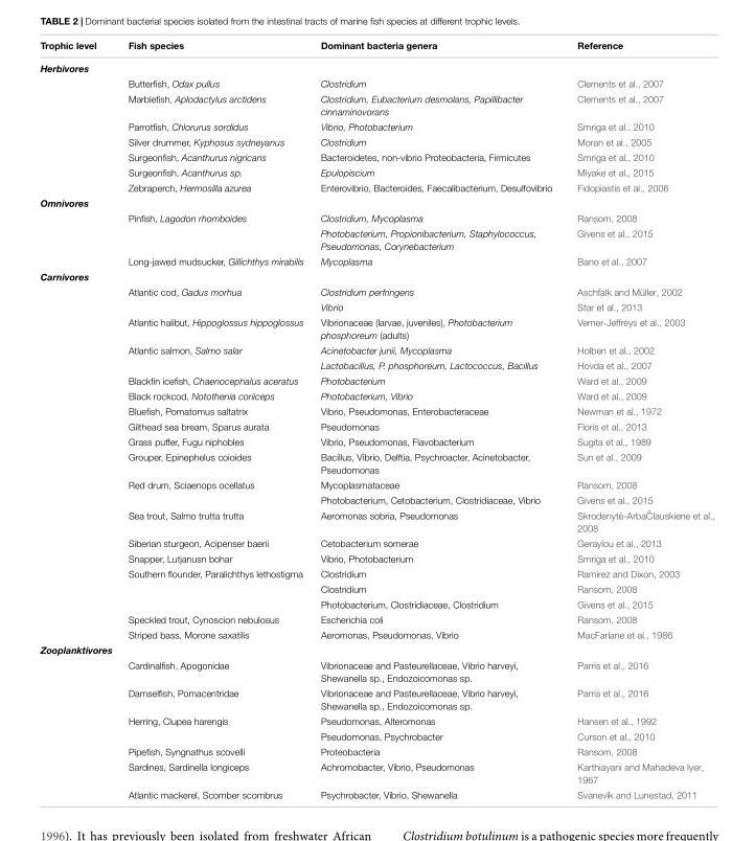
<table><thead><tr><td>Trophic level</td><td>Fish species</td><td>Dominant bacteria genera</td><td>Reference</td></tr></thead><tbody><tr><td colspan="4">Herbivores</td></tr><tr><td></td><td>Butterfish, Odax pullus</td><td>Clostridium</td><td>Clements et al., 2007</td></tr><tr><td></td><td>Marblefish, Aplodactylus arctidens</td><td>Clostridium, Eubacterium desmolans, Papillibacter cinnaminovorans</td><td>Clements et al., 2007</td></tr><tr><td></td><td>Parrotfish, Chlorurus sordidus</td><td>Vibrio, Photobacterium</td><td>Smriga et al., 2010</td></tr><tr><td></td><td>Silver drummer, Kyphosus sydneyanus</td><td>Clostridium</td><td>Moran et al., 2005</td></tr><tr><td></td><td>Surgeonfish, Acanthurus nigricans</td><td>Bacteroidetes, non-vibrio Proteobacteria, Firmicutes</td><td>Smriga et al., 2010</td></tr><tr><td></td><td>Surgeonfish, Acanthurus sp.</td><td>Epulopiscium</td><td>Miyake et al., 2015</td></tr><tr><td></td><td>Zebraperch, Hermosilla azurea</td><td>Enterovibrio, Bacteroides, Faecalibacterium, Desulfovibrio</td><td>Fidopiastis et al., 2006</td></tr><tr><td colspan="4">Omnivores</td></tr><tr><td></td><td>Pinfish, Lagodon rhomboides</td><td>Clostridium, Mycoplasma</td><td>Ransom, 2008</td></tr><tr><td></td><td></td><td>Photobacterium, Propionibacterium, Staphylococcus, Pseudomonas, Corynebacterium</td><td>Givens et al., 2015</td></tr><tr><td></td><td>Long-jawed mudsucker, Gillichthys mirabilis</td><td>Mycoplasma</td><td>Bano et al., 2007</td></tr><tr><td colspan="4">Carnivores</td></tr><tr><td></td><td>Atlantic cod, Gadus morhua</td><td>Clostridium perfringens</td><td>Aschfalk and Müller, 2002</td></tr><tr><td></td><td></td><td>Vibrio</td><td>Star et al., 2013</td></tr><tr><td></td><td>Atlantic halibut, Hippoglossus hippoglossus</td><td>Vibrionaceae (larvae, juveniles), Photobacterium phosphoreum (adults)</td><td>Verner-Jeffreys et al., 2003</td></tr><tr><td></td><td>Atlantic salmon, Salmo salar</td><td>Acinetobacter junii, Mycoplasma</td><td>Holben et al., 2002</td></tr><tr><td></td><td></td><td>Lactobacillus, P. phosphoreum, Lactococcus, Bacillus</td><td>Hovda et al., 2007</td></tr><tr><td></td><td>Blackfin icefish, Chaenocephalus aceratus</td><td>Photobacterium</td><td>Ward et al., 2009</td></tr><tr><td></td><td>Black rockcod, Notothenia coriiceps</td><td>Photobacterium, Vibrio</td><td>Ward et al., 2009</td></tr><tr><td></td><td>Bluefish, Pomatomus saltatrix</td><td>Vibrio, Pseudomonas, Enterobacteraceae</td><td>Newman et al., 1972</td></tr><tr><td></td><td>Gilthead sea bream, Sparus aurata</td><td>Pseudomonas</td><td>Floris et al., 2013</td></tr><tr><td></td><td>Grass puffer, Fugu niphobles</td><td>Vibrio, Pseudomonas, Flavobacterium</td><td>Sugita et al., 1989</td></tr><tr><td></td><td>Grouper, Epinephelus coioides</td><td>Bacillus, Vibrio, Delftia, Psychroacter, Acinetobacter, Pseudomonas</td><td>Sun et al., 2009</td></tr><tr><td></td><td>Red drum, Sciaenops ocellatus</td><td>Mycoplasmataceae</td><td>Ransom, 2008</td></tr><tr><td></td><td></td><td>Photobacterium, Cetobacterium, Clostridiaceae, Vibrio</td><td>Givens et al., 2015</td></tr><tr><td></td><td>Sea trout, Salmo trutta trutta</td><td>Aeromonas sobria, Pseudomonas</td><td>Skrodenyt ˙e-Arba ˇCIauskiene et al., 2008</td></tr><tr><td></td><td>Siberian sturgeon, Acipenser baerii</td><td>Cetobacterium somerae</td><td>Geraylou et al., 2013</td></tr><tr><td></td><td>Snapper, Lutjanusn bohar</td><td>Vibrio, Photobacterium</td><td>Smriga et al., 2010</td></tr><tr><td></td><td>Southern flounder, Paralichthys lethostigma</td><td>Clostridium</td><td>Ramirez and Dixon, 2003</td></tr><tr><td></td><td></td><td>Clostridium</td><td>Ransom, 2008</td></tr><tr><td></td><td></td><td>Photobacterium, Clostridiaceae, Clostridium</td><td>Givens et al., 2015</td></tr><tr><td></td><td>Speckled trout, Cynoscion nebulosus</td><td>Escherichia coli</td><td>Ransom, 2008</td></tr><tr><td></td><td>Striped bass, Morone saxatilis</td><td>Aeromonas, Pseudomonas, Vibrio</td><td>MacFarlane et al., 1986</td></tr><tr><td colspan="4">Zooplanktivores</td></tr><tr><td></td><td>Cardinalfish, Apogonidae</td><td>Vibrionaceae and Pasteurellaceae, Vibrio harveyi, Shewanella sp., Endozoicomonas sp.</td><td>Parris et al., 2016</td></tr><tr><td></td><td>Damselfish, Pomacentridae</td><td>Vibrionaceae and Pasteurellaceae, Vibrio harveyi, Shewanella sp., Endozoicomonas sp.</td><td>Parris et al., 2016</td></tr><tr><td></td><td>Herring, Clupea harengis</td><td>Pseudomonas, Alteromonas</td><td>Hansen et al., 1992</td></tr><tr><td></td><td></td><td>Pseudomonas, Psychrobacter</td><td>Curson et al., 2010</td></tr><tr><td></td><td>Pipefish, Syngnathus scovelli</td><td>Proteobacteria</td><td>Ransom, 2008</td></tr><tr><td></td><td>Sardines, Sardinella longiceps</td><td>Achromobacter, Vibrio, Pseudomonas</td><td>Karthiayani and Mahadeva Iyer, 1967</td></tr><tr><td></td><td>Atlantic mackerel, Scomber scombrus</td><td>Psychrobacter, Vibrio, Shewanella</td><td>Svanevik and Lunestad, 2011</td></tr></tbody></table>